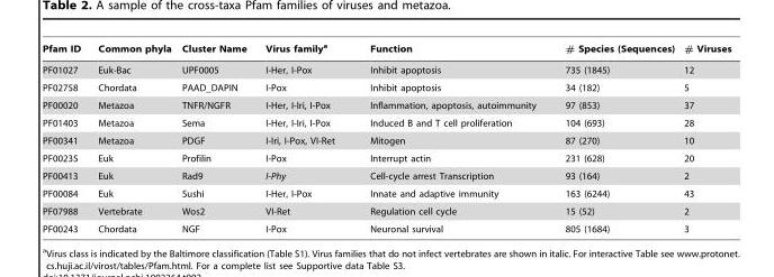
<table><thead><tr><td>Pfam ID</td><td>Common phyla</td><td>Cluster Name</td><td>Virus family<sup>a</sup></td><td>Function</td><td># Species (Sequences)</td><td># Viruses</td></tr></thead><tbody><tr><td>PF01027</td><td>Euk-Bac</td><td>UPF0005</td><td>I-Her, I-Pox</td><td>Inhibit apoptosis</td><td>735 (1845)</td><td>12</td></tr><tr><td>PF02758</td><td>Chordata</td><td>PAAD_DAPIN</td><td>I-Pox</td><td>Inhibit apoptosis</td><td>34 (182)</td><td>5</td></tr><tr><td>PF00020</td><td>Metazoa</td><td>TNFR/NGFR</td><td>I-Her, I-Iri, I-Pox</td><td>Inflammation, apoptosis, autoimmunity</td><td>97 (853)</td><td>37</td></tr><tr><td>PF01403</td><td>Metazoa</td><td>Sema</td><td>I-Her, I-Iri, I-Pox</td><td>Induced B and T cell proliferation</td><td>104 (693)</td><td>28</td></tr><tr><td>PF00341</td><td>Metazoa</td><td>PDGF</td><td>I-Iri, I-Pox, VI-Ret</td><td>Mitogen</td><td>87 (270)</td><td>10</td></tr><tr><td>PF00235</td><td>Euk</td><td>Profilin</td><td>I-Pox</td><td>Interrupt actin</td><td>231 (628)</td><td>20</td></tr><tr><td>PF00413</td><td>Euk</td><td>Rad9</td><td>I-Phy</td><td>Cell-cycle arrest Transcription</td><td>93 (164)</td><td>2</td></tr><tr><td>PF00084</td><td>Euk</td><td>Sushi</td><td>I-Her, I-Pox</td><td>Innate and adaptive immunity</td><td>163 (6244)</td><td>43</td></tr><tr><td>PF07988</td><td>Vertebrate</td><td>Wos2</td><td>VI-Ret</td><td>Regulation cell cycle</td><td>15 (52)</td><td>2</td></tr><tr><td>PF00243</td><td>Chordata</td><td>NGF</td><td>I-Pox</td><td>Neuronal survival</td><td>805 (1684)</td><td>3</td></tr></tbody></table>